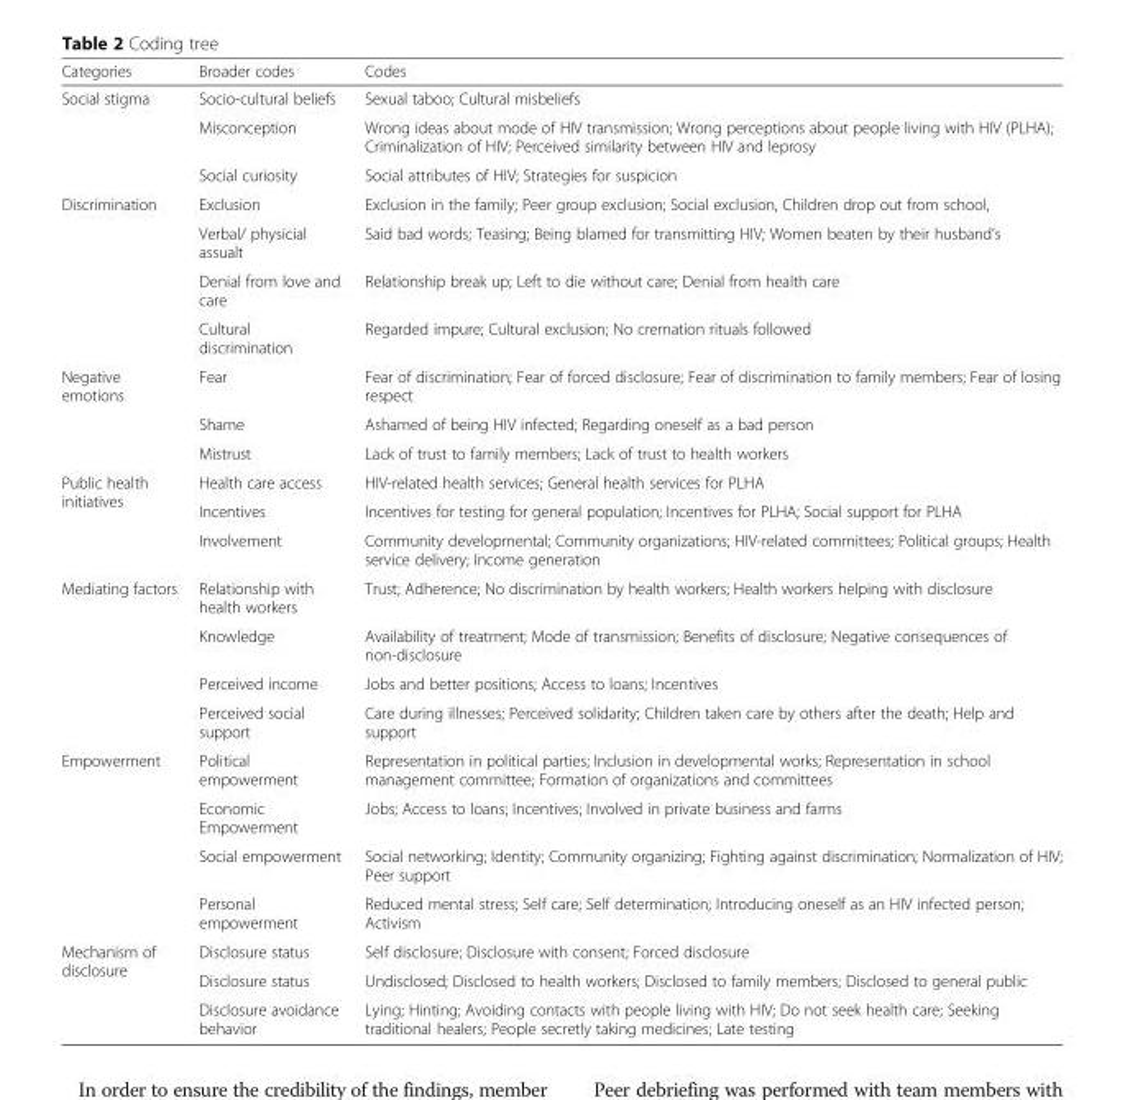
<table><thead><tr><td>Categories</td><td>Broader codes</td><td>Codes</td></tr></thead><tbody><tr><td rowspan="3">Social stigma</td><td>Socio-cultural beliefs</td><td>Sexual taboo; Cultural misbeliefs</td></tr><tr><td>Misconception</td><td>Wrong ideas about mode of HIV transmission; Wrong perceptions about people living with HIV (PLHA); Criminalization of HIV; Perceived similarity between HIV and leprosy</td></tr><tr><td>Social curiosity</td><td>Social attributes of HIV; Strategies for suspicion</td></tr><tr><td rowspan="4">Discrimination</td><td>Exclusion</td><td>Exclusion in the family; Peer group exclusion; Social exclusion, Children drop out from school,</td></tr><tr><td>Verbal/ physicial assualt</td><td>Said bad words; Teasing; Being blamed for transmitting HIV; Women beaten by their husband’s</td></tr><tr><td>Denial from love and care</td><td>Relationship break up; Left to die without care; Denial from health care</td></tr><tr><td>Cultural discrimination</td><td>Regarded impure; Cultural exclusion; No cremation rituals followed</td></tr><tr><td rowspan="3">Negative emotions</td><td>Fear</td><td>Fear of discrimination; Fear of forced disclosure; Fear of discrimination to family members; Fear of losing respect</td></tr><tr><td>Shame</td><td>Ashamed of being HIV infected; Regarding oneself as a bad person</td></tr><tr><td>Mistrust</td><td>Lack of trust to family members; Lack of trust to health workers</td></tr><tr><td rowspan="3">Public health initiatives</td><td>Health care access</td><td>HIV-related health services; General health services for PLHA</td></tr><tr><td>Incentives</td><td>Incentives for testing for general population; Incentives for PLHA; Social support for PLHA</td></tr><tr><td>Involvement</td><td>Community developmental; Community organizations; HIV-related committees; Political groups; Health service delivery; Income generation</td></tr><tr><td rowspan="4">Mediating factors</td><td>Relationship with health workers</td><td>Trust; Adherence; No discrimination by health workers; Health workers helping with disclosure</td></tr><tr><td>Knowledge</td><td>Availability of treatment; Mode of transmission; Benefits of disclosure; Negative consequences of non-disclosure</td></tr><tr><td>Perceived income</td><td>Jobs and better positions; Access to loans; Incentives</td></tr><tr><td>Perceived social support</td><td>Care during illnesses; Perceived solidarity; Children taken care by others after the death; Help and support</td></tr><tr><td rowspan="4">Empowerment</td><td>Political empowerment</td><td>Representation in political parties; Inclusion in developmental works; Representation in school management committee; Formation of organizations and committees</td></tr><tr><td>Economic Empowerment</td><td>Jobs; Access to loans; Incentives; Involved in private business and farms</td></tr><tr><td>Social empowerment</td><td>Social networking; Identity; Community organizing; Fighting against discrimination; Normalization of HIV; Peer support</td></tr><tr><td>Personal empowerment</td><td>Reduced mental stress; Self care; Self determination; Introducing oneself as an HIV infected person; Activism</td></tr><tr><td rowspan="3">Mechanism of disclosure</td><td>Disclosure status</td><td>Self disclosure; Disclosure with consent; Forced disclosure</td></tr><tr><td>Disclosure status</td><td>Undisclosed; Disclosed to health workers; Disclosed to family members; Disclosed to general public</td></tr><tr><td>Disclosure avoidance behavior</td><td>Lying; Hinting; Avoiding contacts with people living with HIV; Do not seek health care; Seeking traditional healers; People secretly taking medicines; Late testing</td></tr></tbody></table>